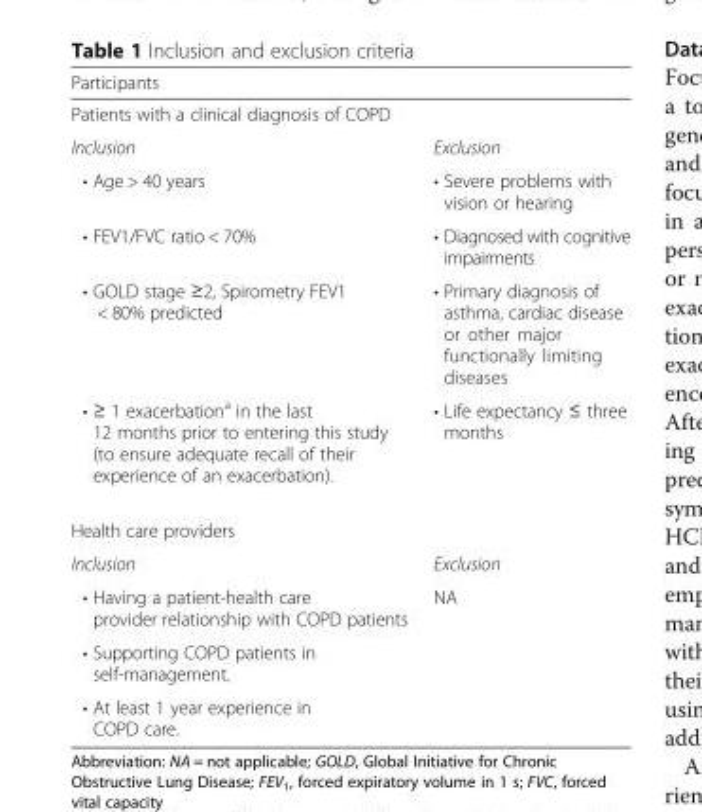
<table><thead><tr><td rowspan="2" colspan="2">Participants Patients with a clinical diagnosis of COPD</td></tr><tr></tr><tr><td>Inclusion</td><td>Exclusion</td></tr></thead><tbody><tr><td>• Age &gt; 40 years</td><td>• Severe problems with vision or hearing</td></tr><tr><td>• FEV1/FVC ratio &lt; 70%</td><td>• Diagnosed with cognitive impairments</td></tr><tr><td>• GOLD stage ≥2, Spirometry FEV1 &lt; 80% predicted</td><td>• Primary diagnosis of asthma, cardiac disease or other major functionally limiting diseases</td></tr><tr><td>• ≥ 1 exacerbation<sup>a</sup> in the last 12 months prior to entering this study (to ensure adequate recall of their experience of an exacerbation).</td><td>• Life expectancy ≤ three months</td></tr><tr><td colspan="2">Health care providers</td></tr><tr><td>Inclusion</td><td>Exclusion</td></tr><tr><td>• Having a patient-health care provider relationship with COPD patients</td><td rowspan="3">NA</td></tr><tr><td>• Supporting COPD patients in self-management.</td></tr><tr><td>• At least 1 year experience in COPD care.</td></tr></tbody></table>